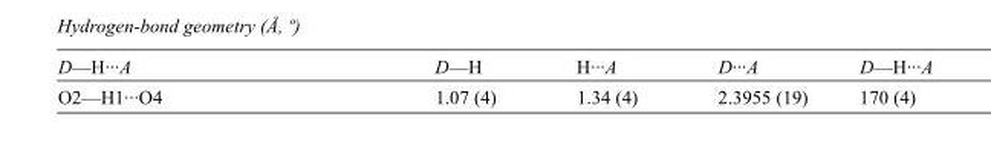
<table><tbody><tr><td>D—H···A</td><td>D—H</td><td>H···A</td><td>D···A</td><td>D—H···A</td></tr><tr><td>O2—H1···O4</td><td>1.07 (4)</td><td>1.34 (4)</td><td>2.3955 (19)</td><td>170 (4)</td></tr></tbody></table>